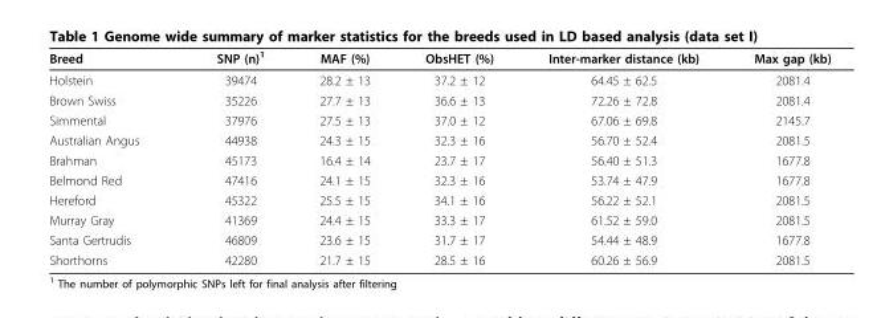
<table><thead><tr><td>Breed</td><td>SNP (n)<sup>1</sup></td><td>MAF (%)</td><td>ObsHET (%)</td><td>Inter-marker distance (kb)</td><td>Max gap (kb)</td></tr></thead><tbody><tr><td>Holstein</td><td>39474</td><td>28.2 ± 13</td><td>37.2 ± 12</td><td>64.45 ± 62.5</td><td>2081.4</td></tr><tr><td>Brown Swiss</td><td>35226</td><td>27.7 ± 13</td><td>36.6 ± 13</td><td>72.26 ± 72.8</td><td>2081.4</td></tr><tr><td>Simmental</td><td>37976</td><td>27.5 ± 13</td><td>37.0 ± 12</td><td>67.06 ± 69.8</td><td>2145.7</td></tr><tr><td>Australian Angus</td><td>44938</td><td>24.3 ± 15</td><td>32.3 ± 16</td><td>56.70 ± 52.4</td><td>2081.5</td></tr><tr><td>Brahman</td><td>45173</td><td>16.4 ± 14</td><td>23.7 ± 17</td><td>56.40 ± 51.3</td><td>1677.8</td></tr><tr><td>Belmond Red</td><td>47416</td><td>24.1 ± 15</td><td>32.3 ± 16</td><td>53.74 ± 47.9</td><td>1677.8</td></tr><tr><td>Hereford</td><td>45322</td><td>25.5 ± 15</td><td>34.1 ± 16</td><td>56.22 ± 52.1</td><td>2081.5</td></tr><tr><td>Murray Gray</td><td>41369</td><td>24.4 ± 15</td><td>33.3 ± 17</td><td>61.52 ± 59.0</td><td>2081.5</td></tr><tr><td>Santa Gertrudis</td><td>46809</td><td>23.6 ± 15</td><td>31.7 ± 17</td><td>54.44 ± 48.9</td><td>1677.8</td></tr><tr><td>Shorthorns</td><td>42280</td><td>21.7 ± 15</td><td>28.5 ± 16</td><td>60.26 ± 56.9</td><td>2081.5</td></tr></tbody></table>